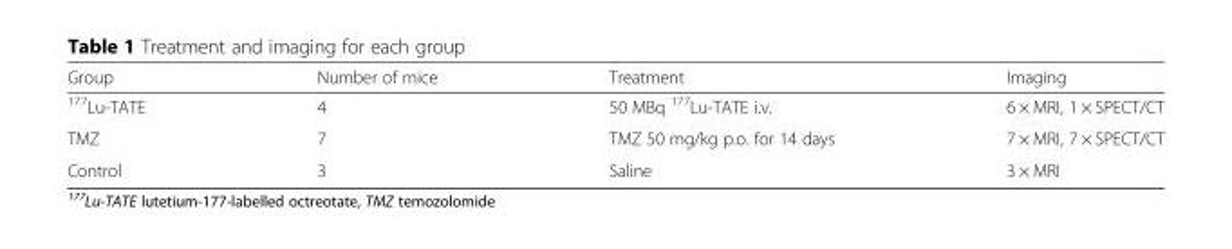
<table><thead><tr><td>Group</td><td>Number of mice</td><td>Treatment</td><td>Imaging</td></tr></thead><tbody><tr><td><sup>177</sup>Lu-TATE</td><td>4</td><td>50 MBq <sup>177</sup>Lu-TATE i.v.</td><td>6 × MRI, 1 × SPECT/CT</td></tr><tr><td>TMZ</td><td>7</td><td>TMZ 50 mg/kg p.o. for 14 days</td><td>7 × MRI, 7 × SPECT/CT</td></tr><tr><td>Control</td><td>3</td><td>Saline</td><td>3 × MRI</td></tr></tbody></table>